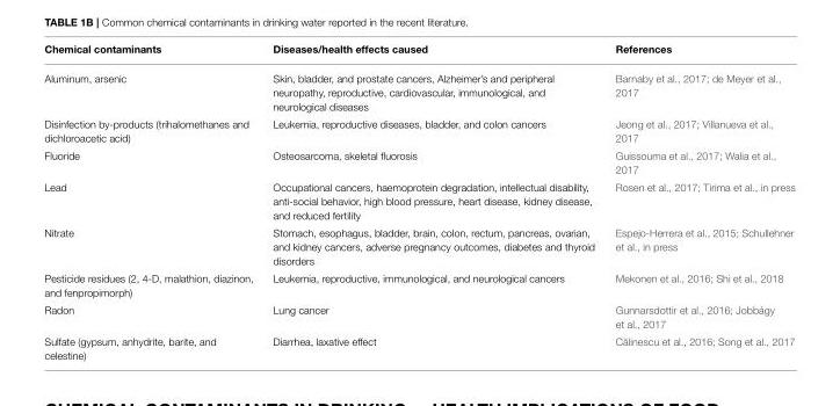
<table><thead><tr><td>Chemical contaminants</td><td>Diseases/health effects caused</td><td>References</td></tr></thead><tbody><tr><td>Aluminum, arsenic</td><td>Skin, bladder, and prostate cancers, Alzheimer’s and peripheral neuropathy, reproductive, cardiovascular, immunological, and neurological diseases</td><td>Barnaby et al., 2017; de Meyer et al., 2017</td></tr><tr><td>Disinfection by-products (trihalomethanes and dichloroacetic acid)</td><td>Leukemia, reproductive diseases, bladder, and colon cancers</td><td>Jeong et al., 2017; Villanueva et al., 2017</td></tr><tr><td>Fluoride</td><td>Osteosarcoma, skeletal fluorosis</td><td>Guissouma et al., 2017; Walia et al., 2017</td></tr><tr><td>Lead</td><td>Occupational cancers, haemoprotein degradation, intellectual disability, anti-social behavior, high blood pressure, heart disease, kidney disease, and reduced fertility</td><td>Rosen et al., 2017; Tirima et al., in press</td></tr><tr><td>Nitrate</td><td>Stomach, esophagus, bladder, brain, colon, rectum, pancreas, ovarian, and kidney cancers, adverse pregnancy outcomes, diabetes and thyroid disorders</td><td>Espejo-Herrera et al., 2015; Schullehner et al., in press</td></tr><tr><td>Pesticide residues (2, 4-D, malathion, diazinon, and fenpropimorph)</td><td>Leukemia, reproductive, immunological, and neurological cancers</td><td>Mekonen et al., 2016; Shi et al., 2018</td></tr><tr><td>Radon</td><td>Lung cancer</td><td>Gunnarsdottir et al., 2016; Jobbágy et al., 2017</td></tr><tr><td>Sulfate (gypsum, anhydrite, barite, and celestine)</td><td>Diarrhea, laxative effect</td><td>C ˘alinescu et al., 2016; Song et al., 2017</td></tr></tbody></table>